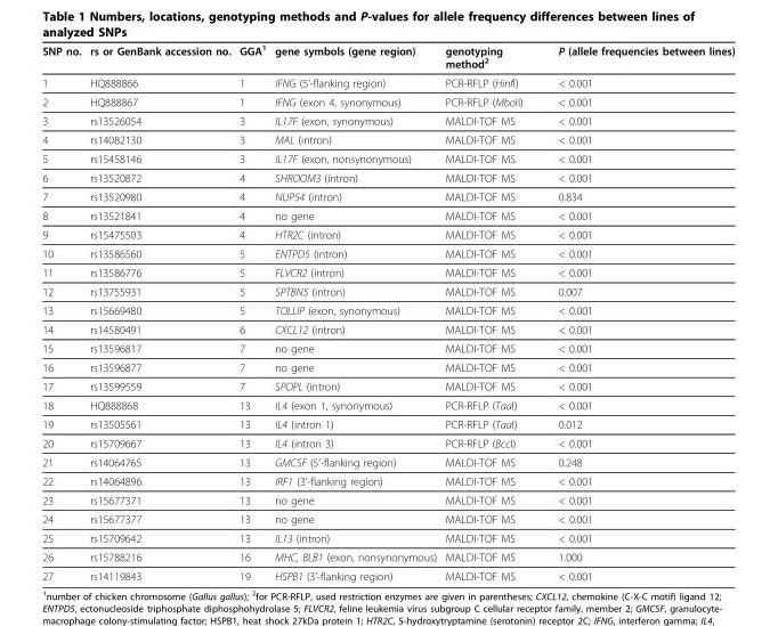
<table><thead><tr><td>SNP no.</td><td>rs or GenBank accession no.</td><td>GGA<sup>1</sup></td><td>gene symbols (gene region)</td><td>genotyping method<sup>2</sup></td><td>P (allele frequencies between lines)</td></tr></thead><tbody><tr><td>1</td><td>HQ888866</td><td>1</td><td>IFNG (5’-flanking region)</td><td>PCR-RFLP (HinfI)</td><td>&lt; 0.001</td></tr><tr><td>2</td><td>HQ888867</td><td>1</td><td>IFNG (exon 4, synonymous)</td><td>PCR-RFLP (MboII)</td><td>&lt; 0.001</td></tr><tr><td>3</td><td>rs13526054</td><td>3</td><td>IL17F (exon, synonymous)</td><td>MALDI-TOF MS</td><td>&lt; 0.001</td></tr><tr><td>4</td><td>rs14082130</td><td>3</td><td>MAL (intron)</td><td>MALDI-TOF MS</td><td>&lt; 0.001</td></tr><tr><td>5</td><td>rs15458146</td><td>3</td><td>IL17F (exon, nonsynonymous)</td><td>MALDI-TOF MS</td><td>&lt; 0.001</td></tr><tr><td>6</td><td>rs13520872</td><td>4</td><td>SHROOM3 (intron)</td><td>MALDI-TOF MS</td><td>&lt; 0.001</td></tr><tr><td>7</td><td>rs13520980</td><td>4</td><td>NUP54 (intron)</td><td>MALDI-TOF MS</td><td>0.834</td></tr><tr><td>8</td><td>rs13521841</td><td>4</td><td>no gene</td><td>MALDI-TOF MS</td><td>&lt; 0.001</td></tr><tr><td>9</td><td>rs15475503</td><td>4</td><td>HTR2C (intron)</td><td>MALDI-TOF MS</td><td>&lt; 0.001</td></tr><tr><td>10</td><td>rs13586560</td><td>5</td><td>ENTPD5 (intron)</td><td>MALDI-TOF MS</td><td>&lt; 0.001</td></tr><tr><td>11</td><td>rs13586776</td><td>5</td><td>FLVCR2 (intron)</td><td>MALDI-TOF MS</td><td>&lt; 0.001</td></tr><tr><td>12</td><td>rs13755931</td><td>5</td><td>SPTBN5 (intron)</td><td>MALDI-TOF MS</td><td>0.007</td></tr><tr><td>13</td><td>rs15669480</td><td>5</td><td>TOLLIP (exon, synonymous)</td><td>MALDI-TOF MS</td><td>&lt; 0.001</td></tr><tr><td>14</td><td>rs14580491</td><td>6</td><td>CXCL12 (intron)</td><td>MALDI-TOF MS</td><td>&lt; 0.001</td></tr><tr><td>15</td><td>rs13596817</td><td>7</td><td>no gene</td><td>MALDI-TOF MS</td><td>&lt; 0.001</td></tr><tr><td>16</td><td>rs13596877</td><td>7</td><td>no gene</td><td>MALDI-TOF MS</td><td>&lt; 0.001</td></tr><tr><td>17</td><td>rs13599559</td><td>7</td><td>SPOPL (intron)</td><td>MALDI-TOF MS</td><td>&lt; 0.001</td></tr><tr><td>18</td><td>HQ888868</td><td>13</td><td>IL4 (exon 1, synonymous)</td><td>PCR-RFLP (TaaI)</td><td>&lt; 0.001</td></tr><tr><td>19</td><td>rs13505561</td><td>13</td><td>IL4 (intron 1)</td><td>PCR-RFLP (TaaI)</td><td>0.012</td></tr><tr><td>20</td><td>rs15709667</td><td>13</td><td>IL4 (intron 3)</td><td>PCR-RFLP (BccI)</td><td>&lt; 0.001</td></tr><tr><td>21</td><td>rs14064765</td><td>13</td><td>GMCSF (5’-flanking region)</td><td>MALDI-TOF MS</td><td>0.248</td></tr><tr><td>22</td><td>rs14064896</td><td>13</td><td>IRF1 (3’-flanking region)</td><td>MALDI-TOF MS</td><td>&lt; 0.001</td></tr><tr><td>23</td><td>rs15677371</td><td>13</td><td>no gene</td><td>MALDI-TOF MS</td><td>&lt; 0.001</td></tr><tr><td>24</td><td>rs15677377</td><td>13</td><td>no gene</td><td>MALDI-TOF MS</td><td>&lt; 0.001</td></tr><tr><td>25</td><td>rs15709642</td><td>13</td><td>IL13 (intron)</td><td>MALDI-TOF MS</td><td>&lt; 0.001</td></tr><tr><td>26</td><td>rs15788216</td><td>16</td><td>MHC, BLB1 (exon, nonsynonymous)</td><td>MALDI-TOF MS</td><td>1.000</td></tr><tr><td>27</td><td>rs14119843</td><td>19</td><td>HSPB1 (3’-flanking region)</td><td>MALDI-TOF MS</td><td>&lt; 0.001</td></tr></tbody></table>